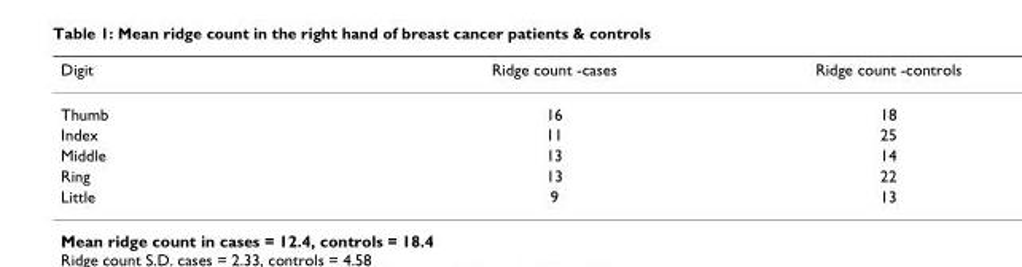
<table><thead><tr><td>Digit</td><td>Ridge count -cases</td><td>Ridge count -controls</td></tr></thead><tbody><tr><td>Thumb</td><td>16</td><td>18</td></tr><tr><td>Index</td><td>11</td><td>25</td></tr><tr><td>Middle</td><td>13</td><td>14</td></tr><tr><td>Ring</td><td>13</td><td>22</td></tr><tr><td>Little</td><td>9</td><td>13</td></tr></tbody></table>